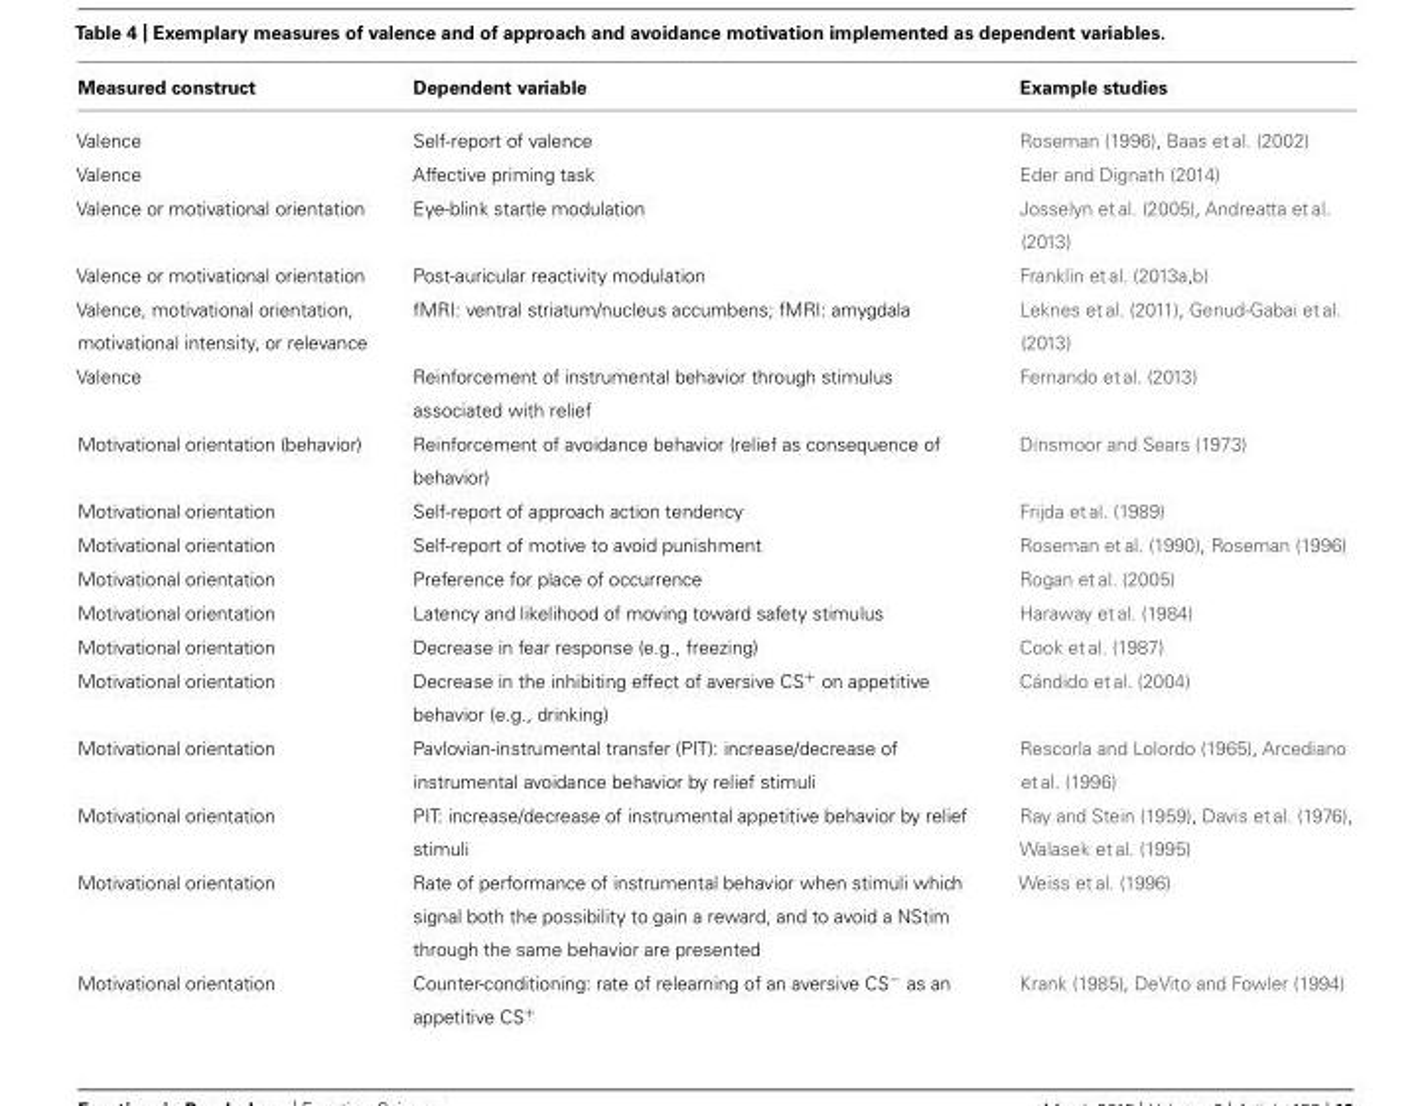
<table><thead><tr><td>Measured construct</td><td>Dependent variable</td><td>Example studies</td></tr></thead><tbody><tr><td>Valence</td><td>Self-report of valence</td><td>Roseman (1996), Baas et al. (2002)</td></tr><tr><td>Valence</td><td>Affective priming task</td><td>Eder and Dignath (2014)</td></tr><tr><td>Valence or motivational orientation</td><td>Eye-blink startle modulation</td><td>Josselyn et al. (2005), Andreatta et al. (2013)</td></tr><tr><td>Valence or motivational orientation</td><td>Post-auricular reactivity modulation</td><td>Franklin et al. (2013a,b)</td></tr><tr><td>Valence, motivational orientation, motivational intensity, or relevance</td><td>fMRI: ventral striatum/nucleus accumbens; fMRI: amygdala</td><td>Leknes et al. (2011), Genud-Gabai et al. (2013)</td></tr><tr><td>Valence</td><td>Reinforcement of instrumental behavior through stimulus associated with relief</td><td>Fernando et al. (2013)</td></tr><tr><td>Motivational orientation (behavior)</td><td>Reinforcement of avoidance behavior (relief as consequence of behavior)</td><td>Dinsmoor and Sears (1973)</td></tr><tr><td>Motivational orientation</td><td>Self-report of approach action tendency</td><td>Frijda et al. (1989)</td></tr><tr><td>Motivational orientation</td><td>Self-report of motive to avoid punishment</td><td>Roseman et al. (1990), Roseman (1996)</td></tr><tr><td>Motivational orientation</td><td>Preference for place of occurrence</td><td>Rogan et al. (2005)</td></tr><tr><td>Motivational orientation</td><td>Latency and likelihood of moving toward safety stimulus</td><td>Haraway et al. (1984)</td></tr><tr><td>Motivational orientation</td><td>Decrease in fear response (e.g., freezing)</td><td>Cook et al. (1987)</td></tr><tr><td>Motivational orientation</td><td>Decrease in the inhibiting effect of aversive CS<sup>+</sup> on appetitive behavior (e.g., drinking)</td><td>Cándido et al. (2004)</td></tr><tr><td>Motivational orientation</td><td>Pavlovian-instrumental transfer (PIT): increase/decrease of instrumental avoidance behavior by relief stimuli</td><td>Rescorla and Lolordo (1965), Arcediano et al. (1996)</td></tr><tr><td>Motivational orientation</td><td>PIT: increase/decrease of instrumental appetitive behavior by relief stimuli</td><td>Ray and Stein (1959), Davis et al. (1976), Walasek et al. (1995)</td></tr><tr><td>Motivational orientation</td><td>Rate of performance of instrumental behavior when stimuli which signal both the possibility to gain a reward, and to avoid a NStim through the same behavior are presented</td><td>Weiss et al. (1996)</td></tr><tr><td>Motivational orientation</td><td>Counter-conditioning: rate of relearning of an aversive CS<sup>−</sup> as an appetitive CS<sup>+</sup></td><td>Krank (1985), DeVito and Fowler (1994)</td></tr></tbody></table>